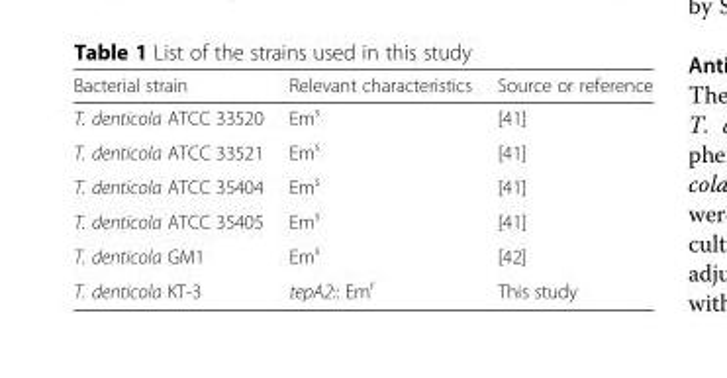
<table><thead><tr><td>Bacterial strain</td><td>Relevant characteristics</td><td>Source or reference</td></tr></thead><tbody><tr><td>T. denticola ATCC 33520</td><td>Em<sup>s</sup></td><td>[41]</td></tr><tr><td>T. denticola ATCC 33521</td><td>Em<sup>s</sup></td><td>[41]</td></tr><tr><td>T. denticola ATCC 35404</td><td>Em<sup>s</sup></td><td>[41]</td></tr><tr><td>T. denticola ATCC 35405</td><td>Em<sup>s</sup></td><td>[41]</td></tr><tr><td>T. denticola GM1</td><td>Em<sup>s</sup></td><td>[42]</td></tr><tr><td>T. denticola KT-3</td><td>tepA2:: Em<sup>r</sup></td><td>This study</td></tr></tbody></table>